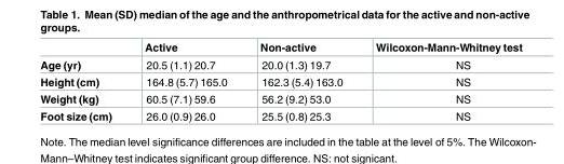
<table><thead><tr><td></td><td>Active</td><td>Non-active</td><td>Wilcoxon-Mann-Whitney test</td></tr></thead><tbody><tr><td>Age (yr)</td><td>20.5 (1.1) 20.7</td><td>20.0 (1.3) 19.7</td><td>NS</td></tr><tr><td>Height (cm)</td><td>164.8 (5.7) 165.0</td><td>162.3 (5.4) 163.0</td><td>NS</td></tr><tr><td>Weight (kg)</td><td>60.5 (7.1) 59.6</td><td>56.2 (9.2) 53.0</td><td>NS</td></tr><tr><td>Foot size (cm)</td><td>26.0 (0.9) 26.0</td><td>25.5 (0.8) 25.3</td><td>NS</td></tr></tbody></table>